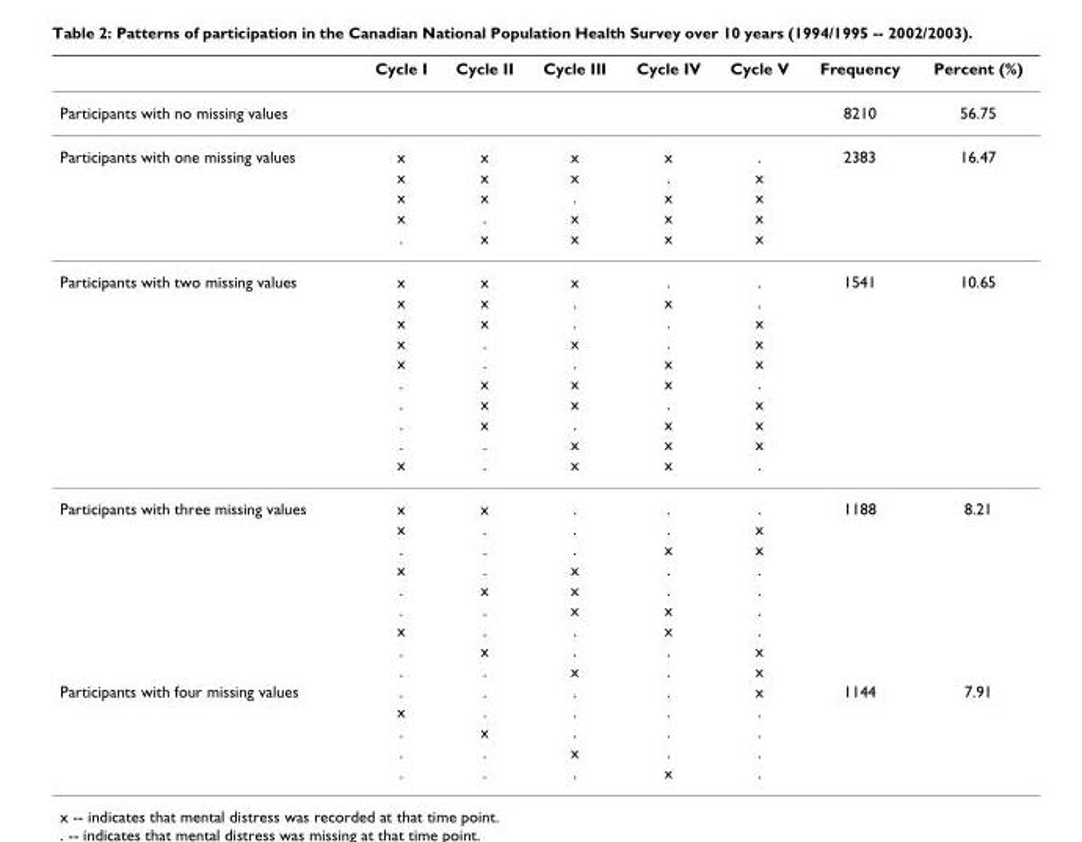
<table><thead><tr><td></td><td>Cycle I</td><td>Cycle II</td><td>Cycle III</td><td>Cycle IV</td><td>Cycle V</td><td>Frequency</td><td>Percent (%)</td></tr></thead><tbody><tr><td>Participants with no missing values</td><td></td><td></td><td></td><td></td><td></td><td>8210</td><td>56.75</td></tr><tr><td rowspan="5">Participants with one missing values</td><td>x</td><td>x</td><td>x</td><td>x</td><td>.</td><td>2383</td><td>16.47</td></tr><tr><td>x</td><td>x</td><td>x</td><td>.</td><td>x</td><td></td><td></td></tr><tr><td>x</td><td>x</td><td>.</td><td>x</td><td>x</td><td></td><td></td></tr><tr><td>x</td><td>.</td><td>x</td><td>x</td><td>x</td><td></td><td></td></tr><tr><td>.</td><td>x</td><td>x</td><td>x</td><td>x</td><td></td><td></td></tr><tr><td rowspan="10">Participants with two missing values</td><td>x</td><td>x</td><td>x</td><td>.</td><td>.</td><td>1541</td><td>10.65</td></tr><tr><td>x</td><td>x</td><td>.</td><td>x</td><td>.</td><td></td><td></td></tr><tr><td>x</td><td>x</td><td>.</td><td>.</td><td>x</td><td></td><td></td></tr><tr><td>x</td><td>.</td><td>x</td><td>.</td><td>x</td><td></td><td></td></tr><tr><td>x</td><td>.</td><td>.</td><td>x</td><td>x</td><td></td><td></td></tr><tr><td>.</td><td>x</td><td>x</td><td>x</td><td>.</td><td></td><td></td></tr><tr><td>.</td><td>x</td><td>x</td><td>.</td><td>x</td><td></td><td></td></tr><tr><td>.</td><td>x</td><td>.</td><td>x</td><td>x</td><td></td><td></td></tr><tr><td>.</td><td>.</td><td>x</td><td>x</td><td>x</td><td></td><td></td></tr><tr><td>x</td><td>.</td><td>x</td><td>x</td><td>.</td><td></td><td></td></tr><tr><td rowspan="9">Participants with three missing values</td><td>x</td><td>x</td><td>.</td><td>.</td><td>.</td><td>1188</td><td>8.21</td></tr><tr><td>x</td><td>.</td><td>.</td><td>.</td><td>x</td><td></td><td></td></tr><tr><td>.</td><td>.</td><td>.</td><td>x</td><td>x</td><td></td><td></td></tr><tr><td>x</td><td>.</td><td>x</td><td>.</td><td>.</td><td></td><td></td></tr><tr><td>.</td><td>x</td><td>x</td><td>.</td><td>.</td><td></td><td></td></tr><tr><td>.</td><td>.</td><td>x</td><td>x</td><td>.</td><td></td><td></td></tr><tr><td>x</td><td>.</td><td>.</td><td>x</td><td>.</td><td></td><td></td></tr><tr><td>.</td><td>x</td><td>.</td><td>.</td><td>x</td><td></td><td></td></tr><tr><td>.</td><td>.</td><td>x</td><td>.</td><td>x</td><td></td><td></td></tr><tr><td rowspan="5">Participants with four missing values</td><td>.</td><td>.</td><td>.</td><td>.</td><td>x</td><td>1144</td><td>7.91</td></tr><tr><td>x</td><td>.</td><td>.</td><td>.</td><td>.</td><td></td><td></td></tr><tr><td>.</td><td>x</td><td>.</td><td>.</td><td>.</td><td></td><td></td></tr><tr><td>.</td><td>.</td><td>x</td><td>.</td><td>.</td><td></td><td></td></tr><tr><td>.</td><td>.</td><td>.</td><td>x</td><td>.</td><td></td><td></td></tr></tbody></table>